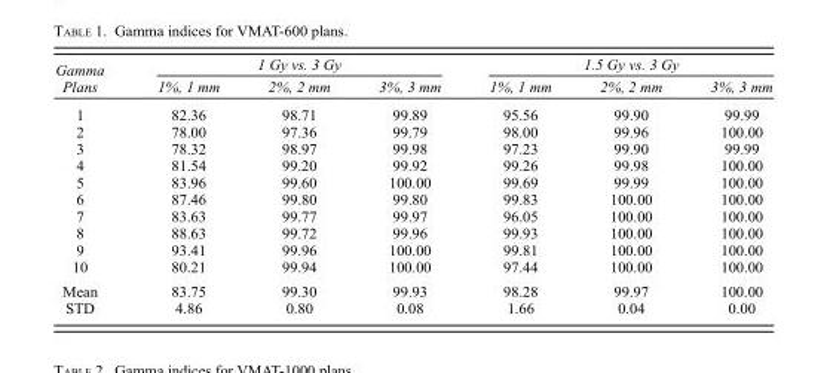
<table><thead><tr><td rowspan="2">Gamma Plans</td><td colspan="3">1 Gy vs. 3 Gy</td><td colspan="3">1.5 Gy vs. 3 Gy</td></tr><tr><td>1%, 1 mm</td><td>2%, 2 mm</td><td>3%, 3 mm</td><td>1%, 1 mm</td><td>2%, 2 mm</td><td>3%, 3 mm</td></tr></thead><tbody><tr><td>1</td><td>82.36</td><td>98.71</td><td>99.89</td><td>95.56</td><td>99.90</td><td>99.99</td></tr><tr><td>2</td><td>78.00</td><td>97.36</td><td>99.79</td><td>98.00</td><td>99.96</td><td>100.00</td></tr><tr><td>3</td><td>78.32</td><td>98.97</td><td>99.98</td><td>97.23</td><td>99.90</td><td>99.99</td></tr><tr><td>4</td><td>81.54</td><td>99.20</td><td>99.92</td><td>99.26</td><td>99.98</td><td>100.00</td></tr><tr><td>5</td><td>83.96</td><td>99.60</td><td>100.00</td><td>99.69</td><td>99.99</td><td>100.00</td></tr><tr><td>6</td><td>87.46</td><td>99.80</td><td>99.80</td><td>99.83</td><td>100.00</td><td>100.00</td></tr><tr><td>7</td><td>83.63</td><td>99.77</td><td>99.97</td><td>96.05</td><td>100.00</td><td>100.00</td></tr><tr><td>8</td><td>88.63</td><td>99.72</td><td>99.96</td><td>99.93</td><td>100.00</td><td>100.00</td></tr><tr><td>9</td><td>93.41</td><td>99.96</td><td>100.00</td><td>99.81</td><td>100.00</td><td>100.00</td></tr><tr><td>10</td><td>80.21</td><td>99.94</td><td>100.00</td><td>97.44</td><td>100.00</td><td>100.00</td></tr><tr><td>Mean</td><td>83.75</td><td>99.30</td><td>99.93</td><td>98.28</td><td>99.97</td><td>100.00</td></tr><tr><td>STD</td><td>4.86</td><td>0.80</td><td>0.08</td><td>1.66</td><td>0.04</td><td>0.00</td></tr></tbody></table>